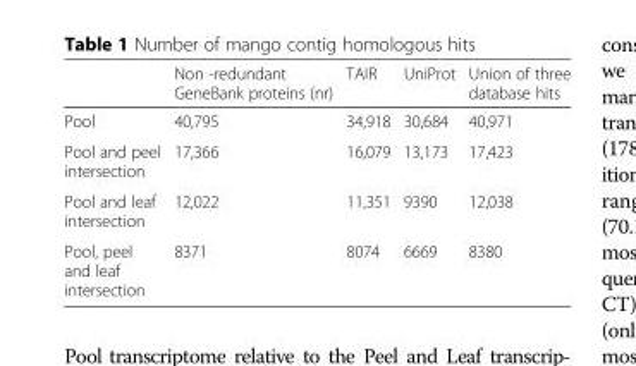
<table><thead><tr><td></td><td>Non -redundant GeneBank proteins (nr)</td><td>TAIR</td><td>UniProt</td><td>Union of three database hits</td></tr></thead><tbody><tr><td>Pool</td><td>40,795</td><td>34,918</td><td>30,684</td><td>40,971</td></tr><tr><td>Pool and peel intersection</td><td>17,366</td><td>16,079</td><td>13,173</td><td>17,423</td></tr><tr><td>Pool and leaf intersection</td><td>12,022</td><td>11,351</td><td>9390</td><td>12,038</td></tr><tr><td>Pool, peel and leaf intersection</td><td>8371</td><td>8074</td><td>6669</td><td>8380</td></tr></tbody></table>